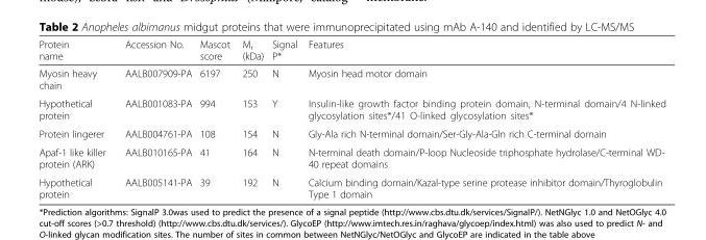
<table><thead><tr><td>Protein name</td><td>Accession No.</td><td>Mascot score</td><td>M<sub>r</sub> (kDa)</td><td>Signal P*</td><td>Features</td></tr></thead><tbody><tr><td>Myosin heavy chain</td><td>AALB007909-PA</td><td>6197</td><td>250</td><td>N</td><td>Myosin head motor domain</td></tr><tr><td>Hypothetical protein</td><td>AALB001083-PA</td><td>994</td><td>153</td><td>Y</td><td>Insulin-like growth factor binding protein domain, N-terminal domain/4 N-linked glycosylation sites*/41 O-linked glycosylation sites*</td></tr><tr><td>Protein lingerer</td><td>AALB004761-PA</td><td>108</td><td>154</td><td>N</td><td>Gly-Ala rich N-terminal domain/Ser-Gly-Ala-Gln rich C-terminal domain</td></tr><tr><td>Apaf-1 like killer protein (ARK)</td><td>AALB010165-PA</td><td>41</td><td>164</td><td>N</td><td>N-terminal death domain/P-loop Nucleoside triphosphate hydrolase/C-terminal WD- 40 repeat domains</td></tr><tr><td>Hypothetical protein</td><td>AALB005141-PA</td><td>39</td><td>192</td><td>N</td><td>Calcium binding domain/Kazal-type serine protease inhibitor domain/Thyroglobulin Type 1 domain</td></tr></tbody></table>